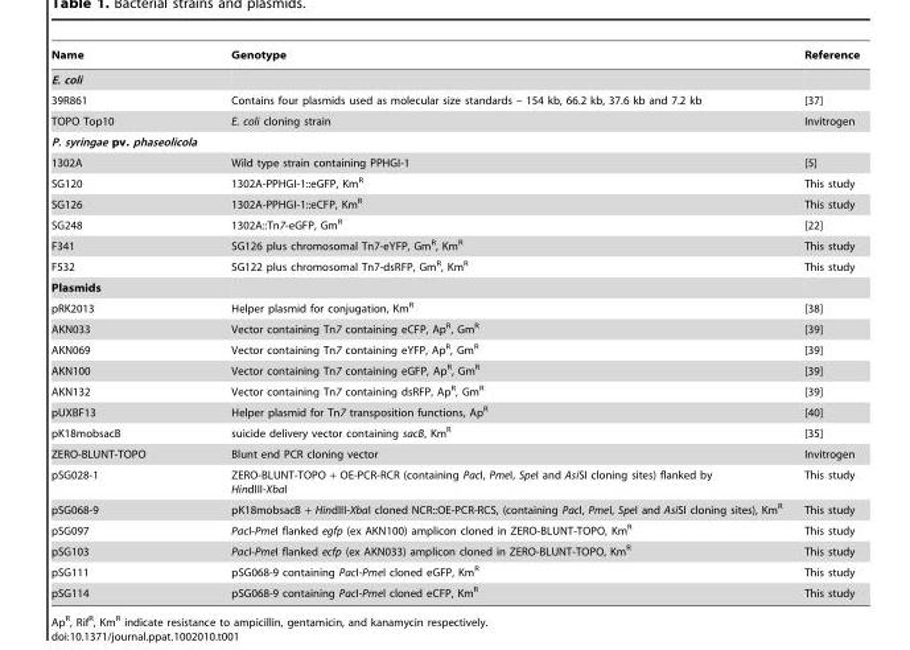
<table><thead><tr><td>Name</td><td>Genotype</td><td>Reference</td></tr></thead><tbody><tr><td colspan="3">E. coli</td></tr><tr><td>39R861</td><td>Contains four plasmids used as molecular size standards – 154 kb, 66.2 kb, 37.6 kb and 7.2 kb</td><td>[37]</td></tr><tr><td>TOPO Top10</td><td>E. coli cloning strain</td><td>Invitrogen</td></tr><tr><td colspan="3">P. syringae pv. phaseolicola</td></tr><tr><td>1302A</td><td>Wild type strain containing PPHGI-1</td><td>[5]</td></tr><tr><td>SG120</td><td>1302A-PPHGI-1::eGFP, Km<sup>R</sup></td><td>This study</td></tr><tr><td>SG126</td><td>1302A-PPHGI-1::eCFP, Km<sup>R</sup></td><td>This study</td></tr><tr><td>SG248</td><td>1302A::Tn7-eGFP, Gm<sup>R</sup></td><td>[22]</td></tr><tr><td>F341</td><td>SG126 plus chromosomal Tn7-eYFP, Gm<sup>R</sup>, Km<sup>R</sup></td><td>This study</td></tr><tr><td>F532</td><td>SG122 plus chromosomal Tn7-dsRFP, Gm<sup>R</sup>, Km<sup>R</sup></td><td>This study</td></tr><tr><td colspan="3">Plasmids</td></tr><tr><td>pRK2013</td><td>Helper plasmid for conjugation, Km<sup>R</sup></td><td>[38]</td></tr><tr><td>AKN033</td><td>Vector containing Tn7 containing eCFP, Ap<sup>R</sup>, Gm<sup>R</sup></td><td>[39]</td></tr><tr><td>AKN069</td><td>Vector containing Tn7 containing eYFP, Ap<sup>R</sup>, Gm<sup>R</sup></td><td>[39]</td></tr><tr><td>AKN100</td><td>Vector containing Tn7 containing eGFP, Ap<sup>R</sup>, Gm<sup>R</sup></td><td>[39]</td></tr><tr><td>AKN132</td><td>Vector containing Tn7 containing dsRFP, Ap<sup>R</sup>, Gm<sup>R</sup></td><td>[39]</td></tr><tr><td>pUXBF13</td><td>Helper plasmid for Tn7 transposition functions, Ap<sup>R</sup></td><td>[40]</td></tr><tr><td>pK18mobsacB</td><td>suicide delivery vector containing sacB, Km<sup>R</sup></td><td>[35]</td></tr><tr><td>ZERO-BLUNT-TOPO</td><td>Blunt end PCR cloning vector</td><td>Invitrogen</td></tr><tr><td>pSG028-1</td><td>ZERO-BLUNT-TOPO + OE-PCR-RCR (containing PacI, PmeI, SpeI and AsiSI cloning sites) flanked by HindIII-XbaI</td><td>This study</td></tr><tr><td>pSG068-9</td><td>pK18mobsacB + HindIII-XbaI cloned NCR::OE-PCR-RCS, (containing PacI, PmeI, SpeI and AsiSI cloning sites), Km<sup>R</sup></td><td>This study</td></tr><tr><td>pSG097</td><td>PacI-PmeI flanked egfp (ex AKN100) amplicon cloned in ZERO-BLUNT-TOPO, Km<sup>R</sup></td><td>This study</td></tr><tr><td>pSG103</td><td>PacI-PmeI flanked ecfp (ex AKN033) amplicon cloned in ZERO-BLUNT-TOPO, Km<sup>R</sup></td><td>This study</td></tr><tr><td>pSG111</td><td>pSG068-9 containing PacI-PmeI cloned eGFP, Km<sup>R</sup></td><td>This study</td></tr><tr><td>pSG114</td><td>pSG068-9 containing PacI-PmeI cloned eCFP, Km<sup>R</sup></td><td>This study</td></tr></tbody></table>